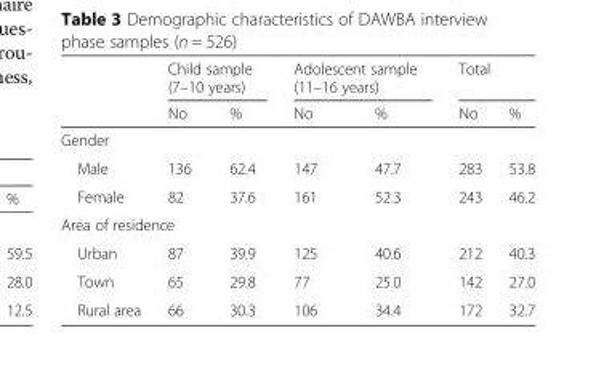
<table><thead><tr><td rowspan="2"></td><td colspan="2">Child sample (7–10 years)</td><td colspan="2">Adolescent sample (11–16 years)</td><td colspan="2">Total</td></tr><tr><td>No</td><td>%</td><td>No</td><td>%</td><td>No</td><td>%</td></tr></thead><tbody><tr><td colspan="7">Gender</td></tr><tr><td>Male</td><td>136</td><td>62.4</td><td>147</td><td>47.7</td><td>283</td><td>53.8</td></tr><tr><td>Female</td><td>82</td><td>37.6</td><td>161</td><td>52.3</td><td>243</td><td>46.2</td></tr><tr><td colspan="7">Area of residence</td></tr><tr><td>Urban</td><td>87</td><td>39.9</td><td>125</td><td>40.6</td><td>212</td><td>40.3</td></tr><tr><td>Town</td><td>65</td><td>29.8</td><td>77</td><td>25.0</td><td>142</td><td>27.0</td></tr><tr><td>Rural area</td><td>66</td><td>30.3</td><td>106</td><td>34.4</td><td>172</td><td>32.7</td></tr></tbody></table>